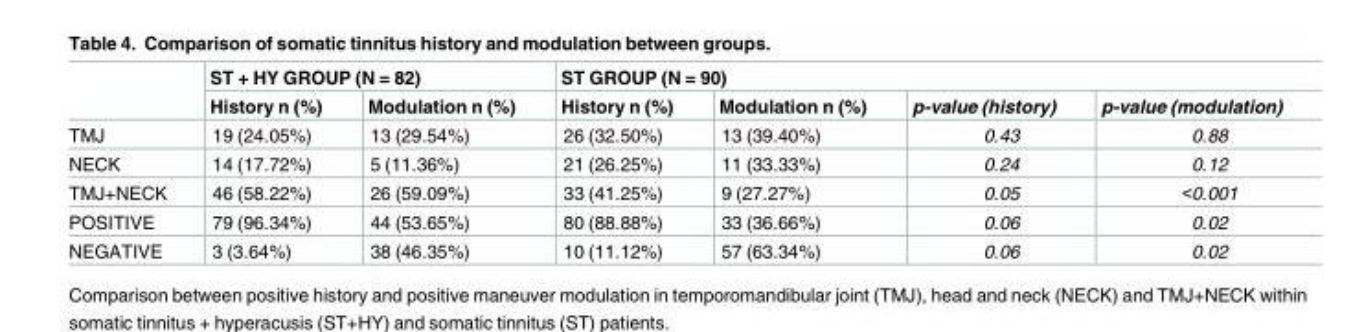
<table><thead><tr><td rowspan="2"></td><td colspan="2">ST + HY GROUP (N = 82)</td><td colspan="4">ST GROUP (N = 90)</td></tr><tr><td>History n (%)</td><td>Modulation n (%)</td><td>History n (%)</td><td>Modulation n (%)</td><td>p-value (history)</td><td>p-value (modulation)</td></tr></thead><tbody><tr><td>TMJ</td><td>19 (24.05%)</td><td>13 (29.54%)</td><td>26 (32.50%)</td><td>13 (39.40%)</td><td>0.43</td><td>0.88</td></tr><tr><td>NECK</td><td>14 (17.72%)</td><td>5 (11.36%)</td><td>21 (26.25%)</td><td>11 (33.33%)</td><td>0.24</td><td>0.12</td></tr><tr><td>TMJ+NECK</td><td>46 (58.22%)</td><td>26 (59.09%)</td><td>33 (41.25%)</td><td>9 (27.27%)</td><td>0.05</td><td>&lt;0.001</td></tr><tr><td>POSITIVE</td><td>79 (96.34%)</td><td>44 (53.65%)</td><td>80 (88.88%)</td><td>33 (36.66%)</td><td>0.06</td><td>0.02</td></tr><tr><td>NEGATIVE</td><td>3 (3.64%)</td><td>38 (46.35%)</td><td>10 (11.12%)</td><td>57 (63.34%)</td><td>0.06</td><td>0.02</td></tr></tbody></table>